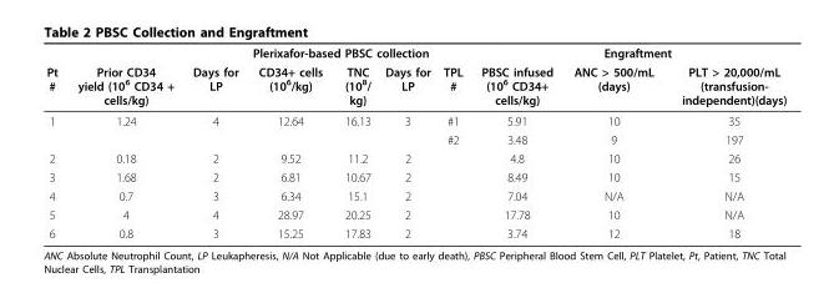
<table><thead><tr><td rowspan="2">Pt #</td><td rowspan="2">Prior CD34 yield (10<sup>6</sup> CD34 + cells/kg)</td><td rowspan="2">Days for LP</td><td colspan="3">Plerixafor-based PBSC collection</td><td rowspan="2">TPL #</td><td colspan="3">Engraftment</td></tr><tr><td>CD34+ cells (10<sup>6</sup>/kg)</td><td>TNC (10<sup>8</sup>/ kg)</td><td>Days for LP</td><td>PBSC infused (10<sup>6</sup> CD34+ cells/kg)</td><td>ANC &gt; 500/mL (days)</td><td>PLT &gt; 20,000/mL (transfusion- independent)(days)</td></tr></thead><tbody><tr><td rowspan="2">1</td><td>1.24</td><td>4</td><td>12.64</td><td>16.13</td><td>3</td><td>#1</td><td>5.91</td><td>10</td><td>35</td></tr><tr><td></td><td></td><td></td><td></td><td></td><td>#2</td><td>3.48</td><td>9</td><td>197</td></tr><tr><td>2</td><td>0.18</td><td>2</td><td>9.52</td><td>11.2</td><td>2</td><td></td><td>4.8</td><td>10</td><td>26</td></tr><tr><td>3</td><td>1.68</td><td>2</td><td>6.81</td><td>10.67</td><td>2</td><td></td><td>8.49</td><td>10</td><td>15</td></tr><tr><td>4</td><td>0.7</td><td>3</td><td>6.34</td><td>15.1</td><td>2</td><td></td><td>7.04</td><td>N/A</td><td>N/A</td></tr><tr><td>5</td><td>4</td><td>4</td><td>28.97</td><td>20.25</td><td>2</td><td></td><td>17.78</td><td>10</td><td>N/A</td></tr><tr><td>6</td><td>0.8</td><td>3</td><td>15.25</td><td>17.83</td><td>2</td><td></td><td>3.74</td><td>12</td><td>18</td></tr></tbody></table>